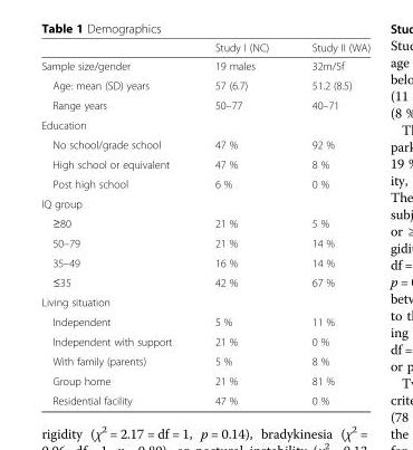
<table><thead><tr><td></td><td>Study I (NC)</td><td>Study II (WA)</td></tr></thead><tbody><tr><td>Sample size/gender</td><td>19 males</td><td>32m/5f</td></tr><tr><td>Age: mean (SD) years</td><td>57 (6.7)</td><td>51.2 (8.5)</td></tr><tr><td>Range years</td><td>50–77</td><td>40–71</td></tr><tr><td colspan="3">Education</td></tr><tr><td>No school/grade school</td><td>47 %</td><td>92 %</td></tr><tr><td>High school or equivalent</td><td>47 %</td><td>8 %</td></tr><tr><td>Post high school</td><td>6 %</td><td>0 %</td></tr><tr><td colspan="3">IQ group</td></tr><tr><td>≥80</td><td>21 %</td><td>5 %</td></tr><tr><td>50–79</td><td>21 %</td><td>14 %</td></tr><tr><td>35–49</td><td>16 %</td><td>14 %</td></tr><tr><td>≤35</td><td>42 %</td><td>67 %</td></tr><tr><td colspan="3">Living situation</td></tr><tr><td>Independent</td><td>5 %</td><td>11 %</td></tr><tr><td>Independent with support</td><td>21 %</td><td>0 %</td></tr><tr><td>With family (parents)</td><td>5 %</td><td>8 %</td></tr><tr><td>Group home</td><td>21 %</td><td>81 %</td></tr><tr><td>Residential facility</td><td>47 %</td><td>0 %</td></tr></tbody></table>